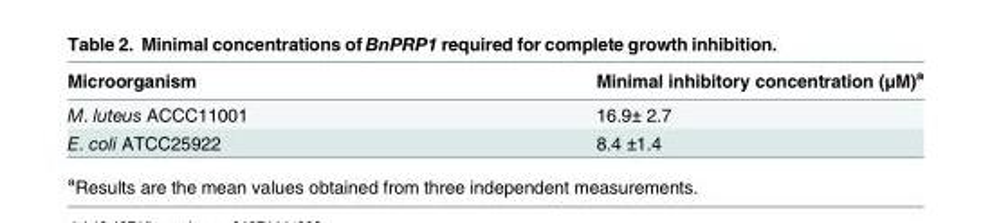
<table><thead><tr><td>Microorganism</td><td>Minimal inhibitory concentration (μM)<sup>a</sup></td></tr></thead><tbody><tr><td>M. luteus ACCC11001</td><td>16.9± 2.7</td></tr><tr><td>E. coli ATCC25922</td><td>8.4 ±1.4</td></tr></tbody></table>